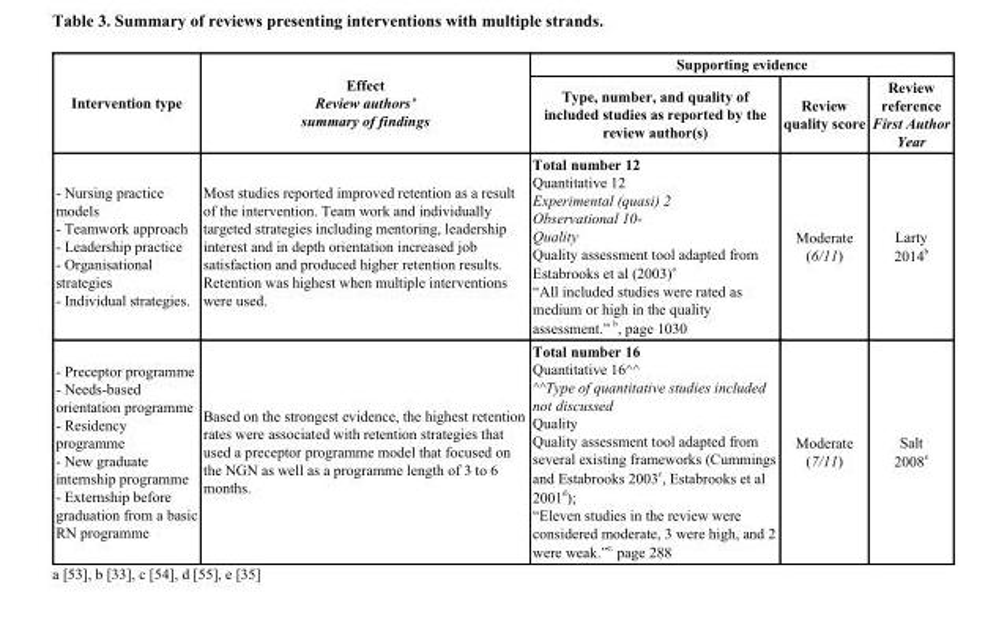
<table><thead><tr><td rowspan="2">Intervention type</td><td rowspan="2">Effect Review authors’ summary of findings</td><td colspan="3">Supporting evidence</td></tr><tr><td>Type, number, and quality of included studies as reported by the review author(s)</td><td>Review quality score</td><td>Review reference First Author Year</td></tr></thead><tbody><tr><td>- Nursing practice models - Teamwork approach - Leadership practice - Organisational strategies - Individual strategies.</td><td>Most studies reported improved retention as a result of the intervention. Team work and individually targeted strategies including mentoring, leadership interest and in depth orientation increased job satisfaction and produced higher retention results. Retention was highest when multiple interventions were used.</td><td>Total number 12 Quantitative 12 Experimental (quasi) 2 Observational 10- Quality Quality assessment tool adapted from Estabrooks et al (2003) <sup>a</sup> “All included studies were rated as medium or high in the quality assessment.” <sup>b</sup>, page 1030</td><td>Moderate (6/11)</td><td>Larty 2014 <sup>b</sup></td></tr><tr><td>- Preceptor programme - Needs-based orientation programme - Residency programme - New graduate internship programme - Externship before graduation from a basic RN programme</td><td>Based on the strongest evidence, the highest retention rates were associated with retention strategies that used a preceptor programme model that focused on the NGN as well as a programme length of 3 to 6 months.</td><td>Total number 16 Quantitative 16^^ ^^Type of quantitative studies included not discussed Quality Quality assessment tool adapted from several existing frameworks (Cummings and Estabrooks 2003 <sup>c</sup>, Estabrooks et al 2001 <sup>d</sup>); “Eleven studies in the review were considered moderate, 3 were high, and 2 were weak.” <sup>e,</sup> page 288</td><td>Moderate (7/11)</td><td>Salt 2008 <sup>e</sup></td></tr></tbody></table>